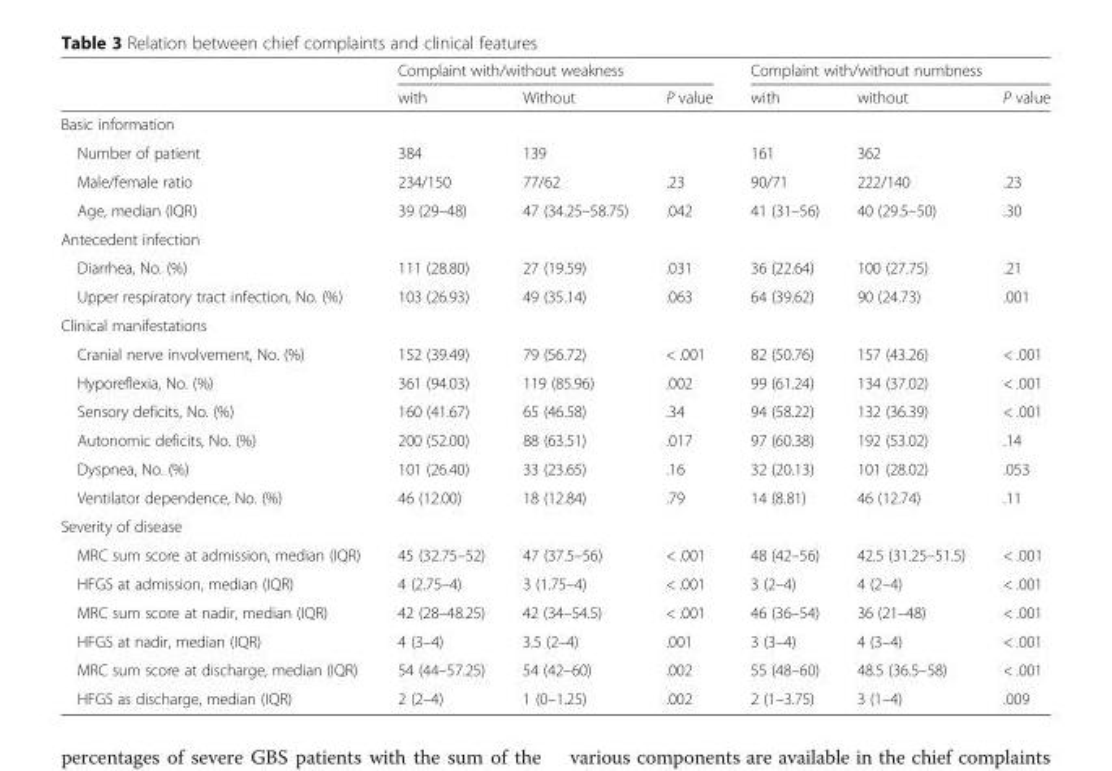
<table><thead><tr><td rowspan="2"></td><td colspan="3">Complaint with/without weakness</td><td colspan="3">Complaint with/without numbness</td></tr><tr><td>with</td><td>Without</td><td>P value</td><td>with</td><td>without</td><td>P value</td></tr></thead><tbody><tr><td colspan="7">Basic information</td></tr><tr><td>Number of patient</td><td>384</td><td>139</td><td></td><td>161</td><td>362</td><td></td></tr><tr><td>Male/female ratio</td><td>234/150</td><td>77/62</td><td>.23</td><td>90/71</td><td>222/140</td><td>.23</td></tr><tr><td>Age, median (IQR)</td><td>39 (29–48)</td><td>47 (34.25–58.75)</td><td>.042</td><td>41 (31–56)</td><td>40 (29.5–50)</td><td>.30</td></tr><tr><td colspan="7">Antecedent infection</td></tr><tr><td>Diarrhea, No. (%)</td><td>111 (28.80)</td><td>27 (19.59)</td><td>.031</td><td>36 (22.64)</td><td>100 (27.75)</td><td>.21</td></tr><tr><td>Upper respiratory tract infection, No. (%)</td><td>103 (26.93)</td><td>49 (35.14)</td><td>.063</td><td>64 (39.62)</td><td>90 (24.73)</td><td>.001</td></tr><tr><td colspan="7">Clinical manifestations</td></tr><tr><td>Cranial nerve involvement, No. (%)</td><td>152 (39.49)</td><td>79 (56.72)</td><td>&lt; .001</td><td>82 (50.76)</td><td>157 (43.26)</td><td>&lt; .001</td></tr><tr><td>Hyporeflexia, No. (%)</td><td>361 (94.03)</td><td>119 (85.96)</td><td>.002</td><td>99 (61.24)</td><td>134 (37.02)</td><td>&lt; .001</td></tr><tr><td>Sensory deficits, No. (%)</td><td>160 (41.67)</td><td>65 (46.58)</td><td>.34</td><td>94 (58.22)</td><td>132 (36.39)</td><td>&lt; .001</td></tr><tr><td>Autonomic deficits, No. (%)</td><td>200 (52.00)</td><td>88 (63.51)</td><td>.017</td><td>97 (60.38)</td><td>192 (53.02)</td><td>.14</td></tr><tr><td>Dyspnea, No. (%)</td><td>101 (26.40)</td><td>33 (23.65)</td><td>.16</td><td>32 (20.13)</td><td>101 (28.02)</td><td>.053</td></tr><tr><td>Ventilator dependence, No. (%)</td><td>46 (12.00)</td><td>18 (12.84)</td><td>.79</td><td>14 (8.81)</td><td>46 (12.74)</td><td>.11</td></tr><tr><td colspan="7">Severity of disease</td></tr><tr><td>MRC sum score at admission, median (IQR)</td><td>45 (32.75–52)</td><td>47 (37.5–56)</td><td>&lt; .001</td><td>48 (42–56)</td><td>42.5 (31.25–51.5)</td><td>&lt; .001</td></tr><tr><td>HFGS at admission, median (IQR)</td><td>4 (2.75–4)</td><td>3 (1.75–4)</td><td>&lt; .001</td><td>3 (2–4)</td><td>4 (2–4)</td><td>&lt; .001</td></tr><tr><td>MRC sum score at nadir, median (IQR)</td><td>42 (28–48.25)</td><td>42 (34–54.5)</td><td>&lt; .001</td><td>46 (36–54)</td><td>36 (21–48)</td><td>&lt; .001</td></tr><tr><td>HFGS at nadir, median (IQR)</td><td>4 (3–4)</td><td>3.5 (2–4)</td><td>.001</td><td>3 (3–4)</td><td>4 (3–4)</td><td>&lt; .001</td></tr><tr><td>MRC sum score at discharge, median (IQR)</td><td>54 (44–57.25)</td><td>54 (42–60)</td><td>.002</td><td>55 (48–60)</td><td>48.5 (36.5–58)</td><td>&lt; .001</td></tr><tr><td>HFGS as discharge, median (IQR)</td><td>2 (2–4)</td><td>1 (0–1.25)</td><td>.002</td><td>2 (1–3.75)</td><td>3 (1–4)</td><td>.009</td></tr></tbody></table>